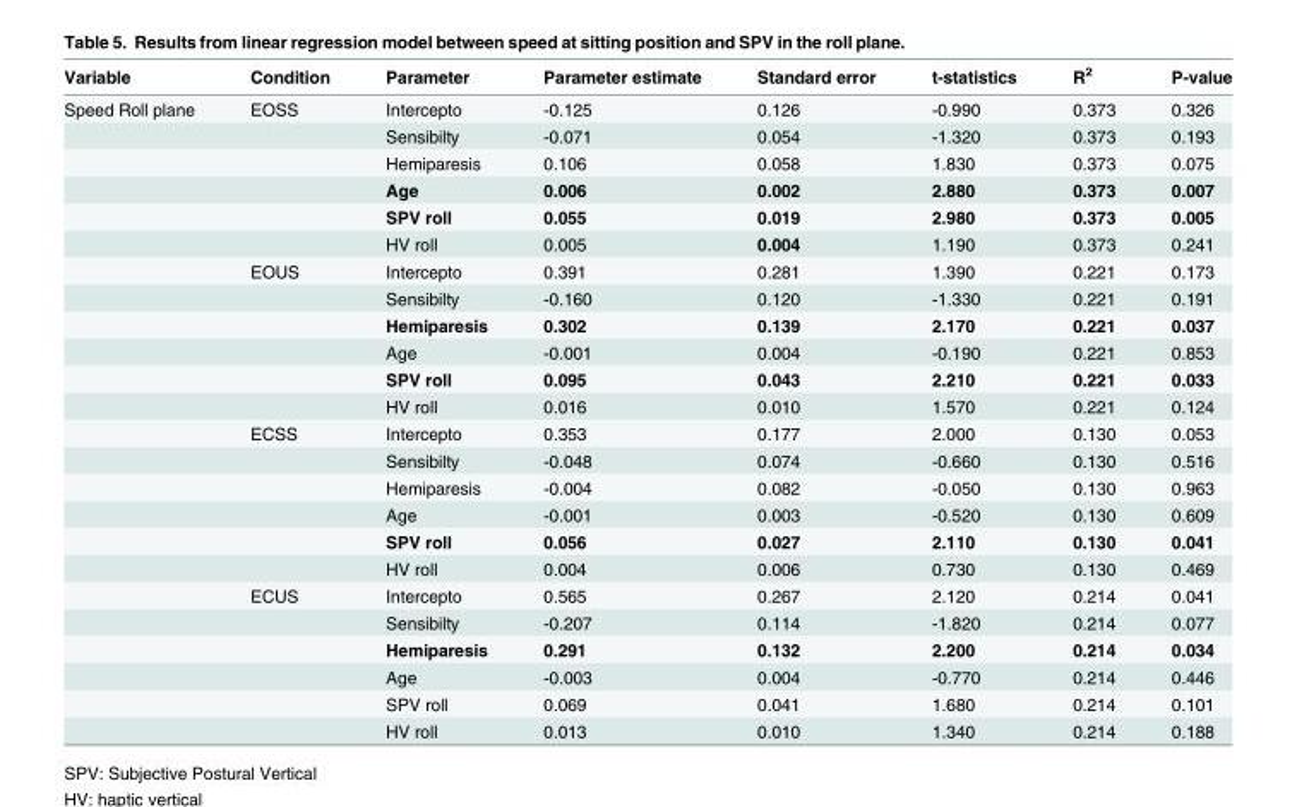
<table><thead><tr><td>Variable</td><td>Condition</td><td>Parameter</td><td>Parameter estimate</td><td>Standard error</td><td>t-statistics</td><td>R<sup>2</sup></td><td>P-value</td></tr></thead><tbody><tr><td rowspan="24">Speed Roll plane</td><td>EOSS</td><td>Intercepto</td><td>-0.125</td><td>0.126</td><td>-0.990</td><td>0.373</td><td>0.326</td></tr><tr><td></td><td>Sensibilty</td><td>-0.071</td><td>0.054</td><td>-1.320</td><td>0.373</td><td>0.193</td></tr><tr><td></td><td>Hemiparesis</td><td>0.106</td><td>0.058</td><td>1.830</td><td>0.373</td><td>0.075</td></tr><tr><td></td><td>Age</td><td>0.006</td><td>0.002</td><td>2.880</td><td>0.373</td><td>0.007</td></tr><tr><td></td><td>SPV roll</td><td>0.055</td><td>0.019</td><td>2.980</td><td>0.373</td><td>0.005</td></tr><tr><td></td><td>HV roll</td><td>0.005</td><td>0.004</td><td>1.190</td><td>0.373</td><td>0.241</td></tr><tr><td>EOUS</td><td>Intercepto</td><td>0.391</td><td>0.281</td><td>1.390</td><td>0.221</td><td>0.173</td></tr><tr><td></td><td>Sensibilty</td><td>-0.160</td><td>0.120</td><td>-1.330</td><td>0.221</td><td>0.191</td></tr><tr><td></td><td>Hemiparesis</td><td>0.302</td><td>0.139</td><td>2.170</td><td>0.221</td><td>0.037</td></tr><tr><td></td><td>Age</td><td>-0.001</td><td>0.004</td><td>-0.190</td><td>0.221</td><td>0.853</td></tr><tr><td></td><td>SPV roll</td><td>0.095</td><td>0.043</td><td>2.210</td><td>0.221</td><td>0.033</td></tr><tr><td></td><td>HV roll</td><td>0.016</td><td>0.010</td><td>1.570</td><td>0.221</td><td>0.124</td></tr><tr><td>ECSS</td><td>Intercepto</td><td>0.353</td><td>0.177</td><td>2.000</td><td>0.130</td><td>0.053</td></tr><tr><td></td><td>Sensibilty</td><td>-0.048</td><td>0.074</td><td>-0.660</td><td>0.130</td><td>0.516</td></tr><tr><td></td><td>Hemiparesis</td><td>-0.004</td><td>0.082</td><td>-0.050</td><td>0.130</td><td>0.963</td></tr><tr><td></td><td>Age</td><td>-0.001</td><td>0.003</td><td>-0.520</td><td>0.130</td><td>0.609</td></tr><tr><td></td><td>SPV roll</td><td>0.056</td><td>0.027</td><td>2.110</td><td>0.130</td><td>0.041</td></tr><tr><td></td><td>HV roll</td><td>0.004</td><td>0.006</td><td>0.730</td><td>0.130</td><td>0.469</td></tr><tr><td>ECUS</td><td>Intercepto</td><td>0.565</td><td>0.267</td><td>2.120</td><td>0.214</td><td>0.041</td></tr><tr><td></td><td>Sensibilty</td><td>-0.207</td><td>0.114</td><td>-1.820</td><td>0.214</td><td>0.077</td></tr><tr><td></td><td>Hemiparesis</td><td>0.291</td><td>0.132</td><td>2.200</td><td>0.214</td><td>0.034</td></tr><tr><td></td><td>Age</td><td>-0.003</td><td>0.004</td><td>-0.770</td><td>0.214</td><td>0.446</td></tr><tr><td></td><td>SPV roll</td><td>0.069</td><td>0.041</td><td>1.680</td><td>0.214</td><td>0.101</td></tr><tr><td></td><td>HV roll</td><td>0.013</td><td>0.010</td><td>1.340</td><td>0.214</td><td>0.188</td></tr></tbody></table>